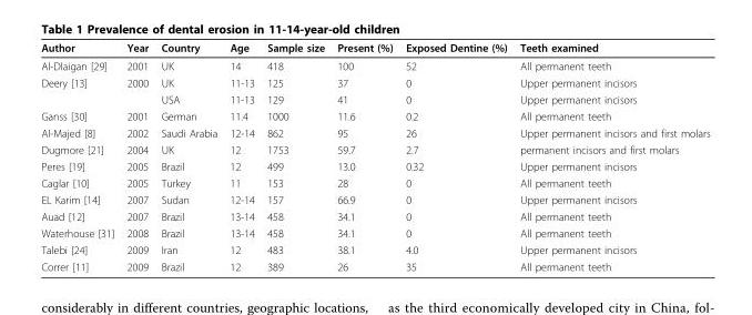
<table><thead><tr><td>Author</td><td>Year</td><td>Country</td><td>Age</td><td>Sample size</td><td>Present (%)</td><td>Exposed Dentine (%)</td><td>Teeth examined</td></tr></thead><tbody><tr><td>Al-Dlaigan [29]</td><td>2001</td><td>UK</td><td>14</td><td>418</td><td>100</td><td>52</td><td>All permanent teeth</td></tr><tr><td rowspan="2">Deery [13]</td><td>2000</td><td>UK</td><td>11-13</td><td>125</td><td>37</td><td>0</td><td>Upper permanent incisors</td></tr><tr><td></td><td>USA</td><td>11-13</td><td>129</td><td>41</td><td>0</td><td>Upper permanent incisors</td></tr><tr><td>Ganss [30]</td><td>2001</td><td>German</td><td>11.4</td><td>1000</td><td>11.6</td><td>0.2</td><td>All permanent teeth</td></tr><tr><td>Al-Majed [8]</td><td>2002</td><td>Saudi Arabia</td><td>12-14</td><td>862</td><td>95</td><td>26</td><td>Upper permanent incisors and first molars</td></tr><tr><td>Dugmore [21]</td><td>2004</td><td>UK</td><td>12</td><td>1753</td><td>59.7</td><td>2.7</td><td>permanent incisors and first molars</td></tr><tr><td>Peres [19]</td><td>2005</td><td>Brazil</td><td>12</td><td>499</td><td>13.0</td><td>0.32</td><td>Upper permanent incisors</td></tr><tr><td>Caglar [10]</td><td>2005</td><td>Turkey</td><td>11</td><td>153</td><td>28</td><td>0</td><td>All permanent teeth</td></tr><tr><td>EL Karim [14]</td><td>2007</td><td>Sudan</td><td>12-14</td><td>157</td><td>66.9</td><td>0</td><td>Upper permanent incisors</td></tr><tr><td>Auad [12]</td><td>2007</td><td>Brazil</td><td>13-14</td><td>458</td><td>34.1</td><td>0</td><td>All permanent teeth</td></tr><tr><td>Waterhouse [31]</td><td>2008</td><td>Brazil</td><td>13-14</td><td>458</td><td>34.1</td><td>0</td><td>All permanent teeth</td></tr><tr><td>Talebi [24]</td><td>2009</td><td>Iran</td><td>12</td><td>483</td><td>38.1</td><td>4.0</td><td>Upper permanent incisors</td></tr><tr><td>Correr [11]</td><td>2009</td><td>Brazil</td><td>12</td><td>389</td><td>26</td><td>35</td><td>All permanent teeth</td></tr></tbody></table>